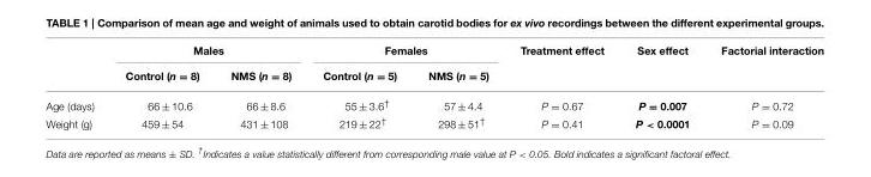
<table><thead><tr><td rowspan="2"></td><td colspan="2">Males</td><td colspan="2">Females</td><td rowspan="2">Treatment effect</td><td rowspan="2">Sex effect</td><td rowspan="2">Factorial interaction</td></tr><tr><td>Control (n = 8)</td><td>NMS (n = 8)</td><td>Control (n = 5)</td><td>NMS (n = 5)</td></tr></thead><tbody><tr><td>Age (days)</td><td>66 ± 10.6</td><td>66 ± 8.6</td><td>55 ± 3.6<sup>†</sup></td><td>57 ± 4.4</td><td>P = 0.67</td><td>P = 0.007</td><td>P = 0.72</td></tr><tr><td>Weight (g)</td><td>459 ± 54</td><td>431 ± 108</td><td>219 ± 22<sup>†</sup></td><td>298 ± 51<sup>†</sup></td><td>P = 0.41</td><td>P &lt; 0.0001</td><td>P = 0.09</td></tr></tbody></table>